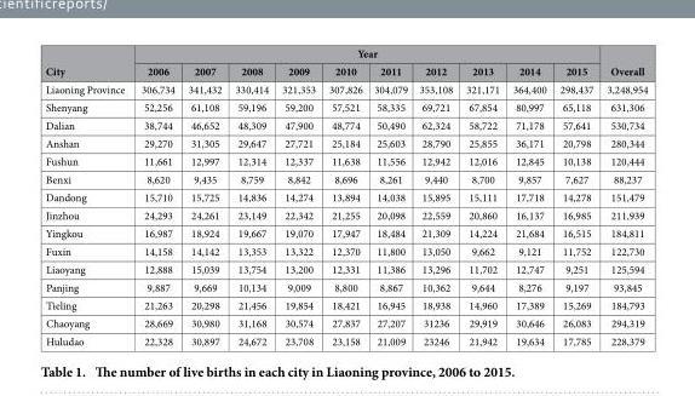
<table><thead><tr><td rowspan="2">City</td><td colspan="10">Year</td><td rowspan="2">Overall</td></tr><tr><td>2006</td><td>2007</td><td>2008</td><td>2009</td><td>2010</td><td>2011</td><td>2012</td><td>2013</td><td>2014</td><td>2015</td></tr></thead><tbody><tr><td>Liaoning Province</td><td>306,734</td><td>341,432</td><td>330,414</td><td>321,353</td><td>307,826</td><td>304,079</td><td>353,108</td><td>321,171</td><td>364,400</td><td>298,437</td><td>3,248,954</td></tr><tr><td>Shenyang</td><td>52,256</td><td>61,108</td><td>59,196</td><td>59,200</td><td>57,521</td><td>58,335</td><td>69,721</td><td>67,854</td><td>80,997</td><td>65,118</td><td>631,306</td></tr><tr><td>Dalian</td><td>38,744</td><td>46,652</td><td>48,309</td><td>47,900</td><td>48,774</td><td>50,490</td><td>62,324</td><td>58,722</td><td>71,178</td><td>57,641</td><td>530,734</td></tr><tr><td>Anshan</td><td>29,270</td><td>31,305</td><td>29,647</td><td>27,721</td><td>25,184</td><td>25,603</td><td>28,790</td><td>25,855</td><td>36,171</td><td>20,798</td><td>280,344</td></tr><tr><td>Fushun</td><td>11,661</td><td>12,997</td><td>12,314</td><td>12,337</td><td>11,638</td><td>11,556</td><td>12,942</td><td>12,016</td><td>12,845</td><td>10,138</td><td>120,444</td></tr><tr><td>Benxi</td><td>8,620</td><td>9,435</td><td>8,759</td><td>8,842</td><td>8,696</td><td>8,261</td><td>9,440</td><td>8,700</td><td>9,857</td><td>7,627</td><td>88,237</td></tr><tr><td>Dandong</td><td>15,710</td><td>15,725</td><td>14,836</td><td>14,274</td><td>13,894</td><td>14,038</td><td>15,895</td><td>15,111</td><td>17,718</td><td>14,278</td><td>151,479</td></tr><tr><td>Jinzhou</td><td>24,293</td><td>24,261</td><td>23,149</td><td>22,342</td><td>21,255</td><td>20,098</td><td>22,559</td><td>20,860</td><td>16,137</td><td>16,985</td><td>211,939</td></tr><tr><td>Yingkou</td><td>16,987</td><td>18,924</td><td>19,667</td><td>19,070</td><td>17,947</td><td>18,484</td><td>21,309</td><td>14,224</td><td>21,684</td><td>16,515</td><td>184,811</td></tr><tr><td>Fuxin</td><td>14,158</td><td>14,142</td><td>13,353</td><td>13,322</td><td>12,370</td><td>11,800</td><td>13,050</td><td>9,662</td><td>9,121</td><td>11,752</td><td>122,730</td></tr><tr><td>Liaoyang</td><td>12,888</td><td>15,039</td><td>13,754</td><td>13,200</td><td>12,331</td><td>11,386</td><td>13,296</td><td>11,702</td><td>12,747</td><td>9,251</td><td>125,594</td></tr><tr><td>Panjing</td><td>9,887</td><td>9,669</td><td>10,134</td><td>9,009</td><td>8,800</td><td>8,867</td><td>10,362</td><td>9,644</td><td>8,276</td><td>9,197</td><td>93,845</td></tr><tr><td>Tieling</td><td>21,263</td><td>20,298</td><td>21,456</td><td>19,854</td><td>18,421</td><td>16,945</td><td>18,938</td><td>14,960</td><td>17,389</td><td>15,269</td><td>184,793</td></tr><tr><td>Chaoyang</td><td>28,669</td><td>30,980</td><td>31,168</td><td>30,574</td><td>27,837</td><td>27,207</td><td>31236</td><td>29,919</td><td>30,646</td><td>26,083</td><td>294,319</td></tr><tr><td>Huludao</td><td>22,328</td><td>30,897</td><td>24,672</td><td>23,708</td><td>23,158</td><td>21,009</td><td>23246</td><td>21,942</td><td>19,634</td><td>17,785</td><td>228,379</td></tr></tbody></table>